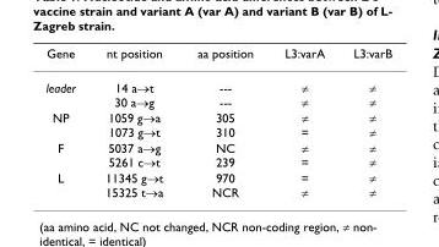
<table><thead><tr><td>Gene</td><td>nt position</td><td>aa position</td><td>L3:varA</td><td>L3:varB</td></tr></thead><tbody><tr><td>leader</td><td>14 a→t 30 a→g</td><td>--- ---</td><td>≠ ≠</td><td>≠ ≠</td></tr><tr><td>NP</td><td>1059 g→a 1073 g→t</td><td>305 310</td><td>≠ =</td><td>≠ ≠</td></tr><tr><td>F</td><td>5037 a→g 5261 c→t</td><td>NC 239</td><td>≠ =</td><td>≠ ≠</td></tr><tr><td>L</td><td>11345 g→t 15325 t→a</td><td>970 NCR</td><td>= ≠</td><td>≠ ≠</td></tr></tbody></table>